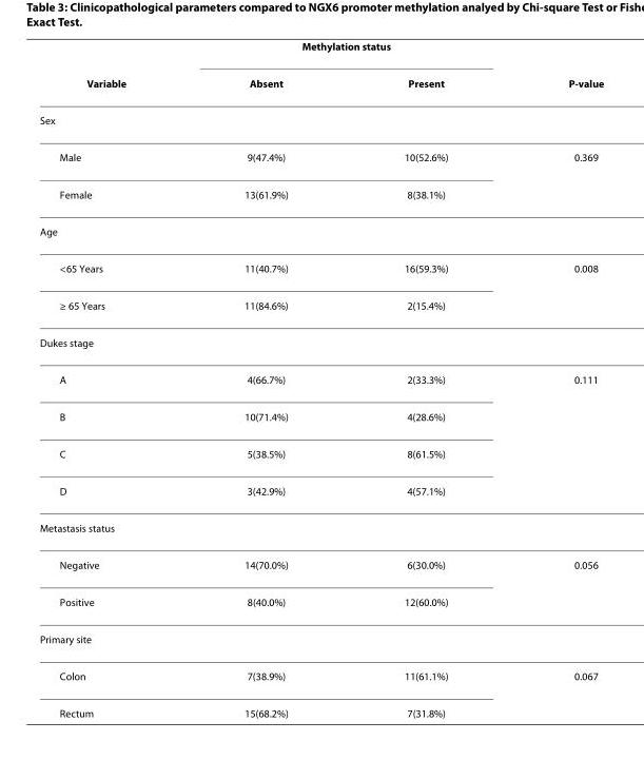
<table><thead><tr><td rowspan="2">Variable</td><td colspan="2">Methylation status</td><td rowspan="2">P-value</td></tr><tr><td>Absent</td><td>Present</td></tr></thead><tbody><tr><td colspan="4">Sex</td></tr><tr><td>Male</td><td>9(47.4%)</td><td>10(52.6%)</td><td>0.369</td></tr><tr><td>Female</td><td>13(61.9%)</td><td>8(38.1%)</td><td></td></tr><tr><td colspan="4">Age</td></tr><tr><td>&lt;65 Years</td><td>11(40.7%)</td><td>16(59.3%)</td><td>0.008</td></tr><tr><td>≥ 65 Years</td><td>11(84.6%)</td><td>2(15.4%)</td><td></td></tr><tr><td colspan="4">Dukes stage</td></tr><tr><td>A</td><td>4(66.7%)</td><td>2(33.3%)</td><td>0.111</td></tr><tr><td>B</td><td>10(71.4%)</td><td>4(28.6%)</td><td></td></tr><tr><td>C</td><td>5(38.5%)</td><td>8(61.5%)</td><td></td></tr><tr><td>D</td><td>3(42.9%)</td><td>4(57.1%)</td><td></td></tr><tr><td colspan="4">Metastasis status</td></tr><tr><td>Negative</td><td>14(70.0%)</td><td>6(30.0%)</td><td>0.056</td></tr><tr><td>Positive</td><td>8(40.0%)</td><td>12(60.0%)</td><td></td></tr><tr><td colspan="4">Primary site</td></tr><tr><td>Colon</td><td>7(38.9%)</td><td>11(61.1%)</td><td>0.067</td></tr><tr><td>Rectum</td><td>15(68.2%)</td><td>7(31.8%)</td><td></td></tr></tbody></table>